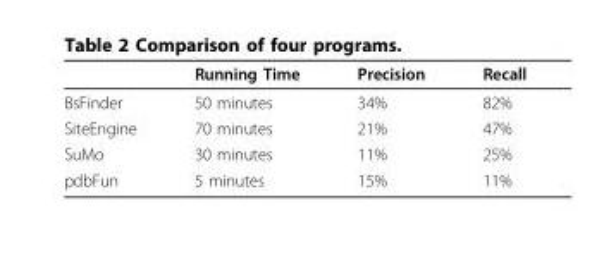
<table><thead><tr><td></td><td>Running Time</td><td>Precision</td><td>Recall</td></tr></thead><tbody><tr><td>BsFinder</td><td>50 minutes</td><td>34%</td><td>82%</td></tr><tr><td>SiteEngine</td><td>70 minutes</td><td>21%</td><td>47%</td></tr><tr><td>SuMo</td><td>30 minutes</td><td>11%</td><td>25%</td></tr><tr><td>pdbFun</td><td>5 minutes</td><td>15%</td><td>11%</td></tr></tbody></table>